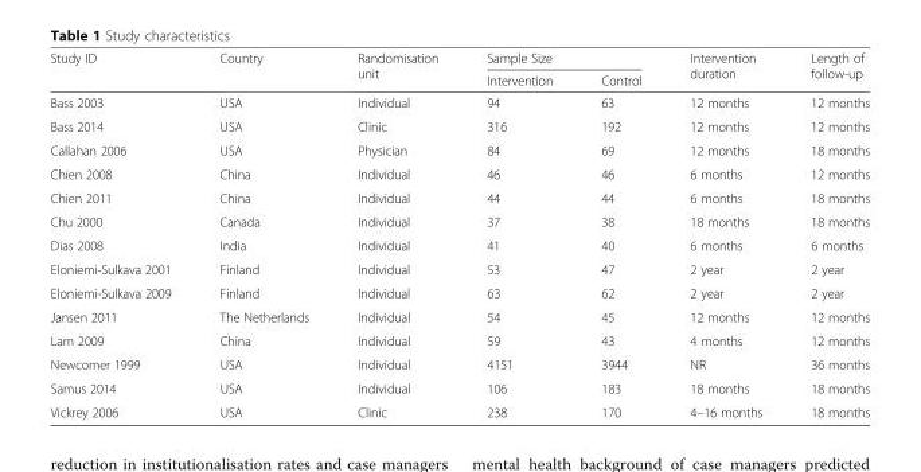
<table><thead><tr><td rowspan="2">Study ID</td><td rowspan="2">Country</td><td rowspan="2">Randomisation unit</td><td colspan="2">Sample Size</td><td rowspan="2">Intervention duration</td><td rowspan="2">Length of follow-up</td></tr><tr><td>Intervention</td><td>Control</td></tr></thead><tbody><tr><td>Bass 2003</td><td>USA</td><td>Individual</td><td>94</td><td>63</td><td>12 months</td><td>12 months</td></tr><tr><td>Bass 2014</td><td>USA</td><td>Clinic</td><td>316</td><td>192</td><td>12 months</td><td>12 months</td></tr><tr><td>Callahan 2006</td><td>USA</td><td>Physician</td><td>84</td><td>69</td><td>12 months</td><td>18 months</td></tr><tr><td>Chien 2008</td><td>China</td><td>Individual</td><td>46</td><td>46</td><td>6 months</td><td>12 months</td></tr><tr><td>Chien 2011</td><td>China</td><td>Individual</td><td>44</td><td>44</td><td>6 months</td><td>18 months</td></tr><tr><td>Chu 2000</td><td>Canada</td><td>Individual</td><td>37</td><td>38</td><td>18 months</td><td>18 months</td></tr><tr><td>Dias 2008</td><td>India</td><td>Individual</td><td>41</td><td>40</td><td>6 months</td><td>6 months</td></tr><tr><td>Eloniemi-Sulkava 2001</td><td>Finland</td><td>Individual</td><td>53</td><td>47</td><td>2 year</td><td>2 year</td></tr><tr><td>Eloniemi-Sulkava 2009</td><td>Finland</td><td>Individual</td><td>63</td><td>62</td><td>2 year</td><td>2 year</td></tr><tr><td>Jansen 2011</td><td>The Netherlands</td><td>Individual</td><td>54</td><td>45</td><td>12 months</td><td>12 months</td></tr><tr><td>Lam 2009</td><td>China</td><td>Individual</td><td>59</td><td>43</td><td>4 months</td><td>12 months</td></tr><tr><td>Newcomer 1999</td><td>USA</td><td>Individual</td><td>4151</td><td>3944</td><td>NR</td><td>36 months</td></tr><tr><td>Samus 2014</td><td>USA</td><td>Individual</td><td>106</td><td>183</td><td>18 months</td><td>18 months</td></tr><tr><td>Vickrey 2006</td><td>USA</td><td>Clinic</td><td>238</td><td>170</td><td>4–16 months</td><td>18 months</td></tr></tbody></table>